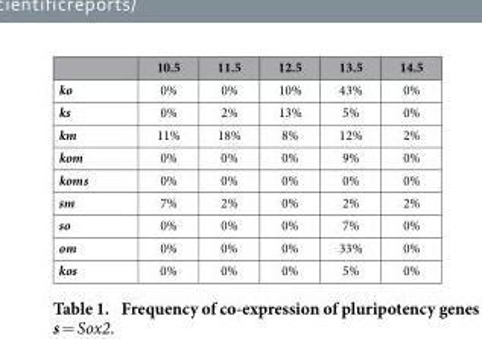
<table><thead><tr><td></td><td>10.5</td><td>11.5</td><td>12.5</td><td>13.5</td><td>14.5</td></tr></thead><tbody><tr><td>ko</td><td>0%</td><td>0%</td><td>10%</td><td>43%</td><td>0%</td></tr><tr><td>ks</td><td>0%</td><td>2%</td><td>13%</td><td>5%</td><td>0%</td></tr><tr><td>km</td><td>11%</td><td>18%</td><td>8%</td><td>12%</td><td>2%</td></tr><tr><td>kom</td><td>0%</td><td>0%</td><td>0%</td><td>9%</td><td>0%</td></tr><tr><td>koms</td><td>0%</td><td>0%</td><td>0%</td><td>0%</td><td>0%</td></tr><tr><td>sm</td><td>7%</td><td>2%</td><td>0%</td><td>2%</td><td>2%</td></tr><tr><td>so</td><td>0%</td><td>0%</td><td>0%</td><td>7%</td><td>0%</td></tr><tr><td>om</td><td>0%</td><td>0%</td><td>0%</td><td>33%</td><td>0%</td></tr><tr><td>kos</td><td>0%</td><td>0%</td><td>0%</td><td>5%</td><td>0%</td></tr></tbody></table>